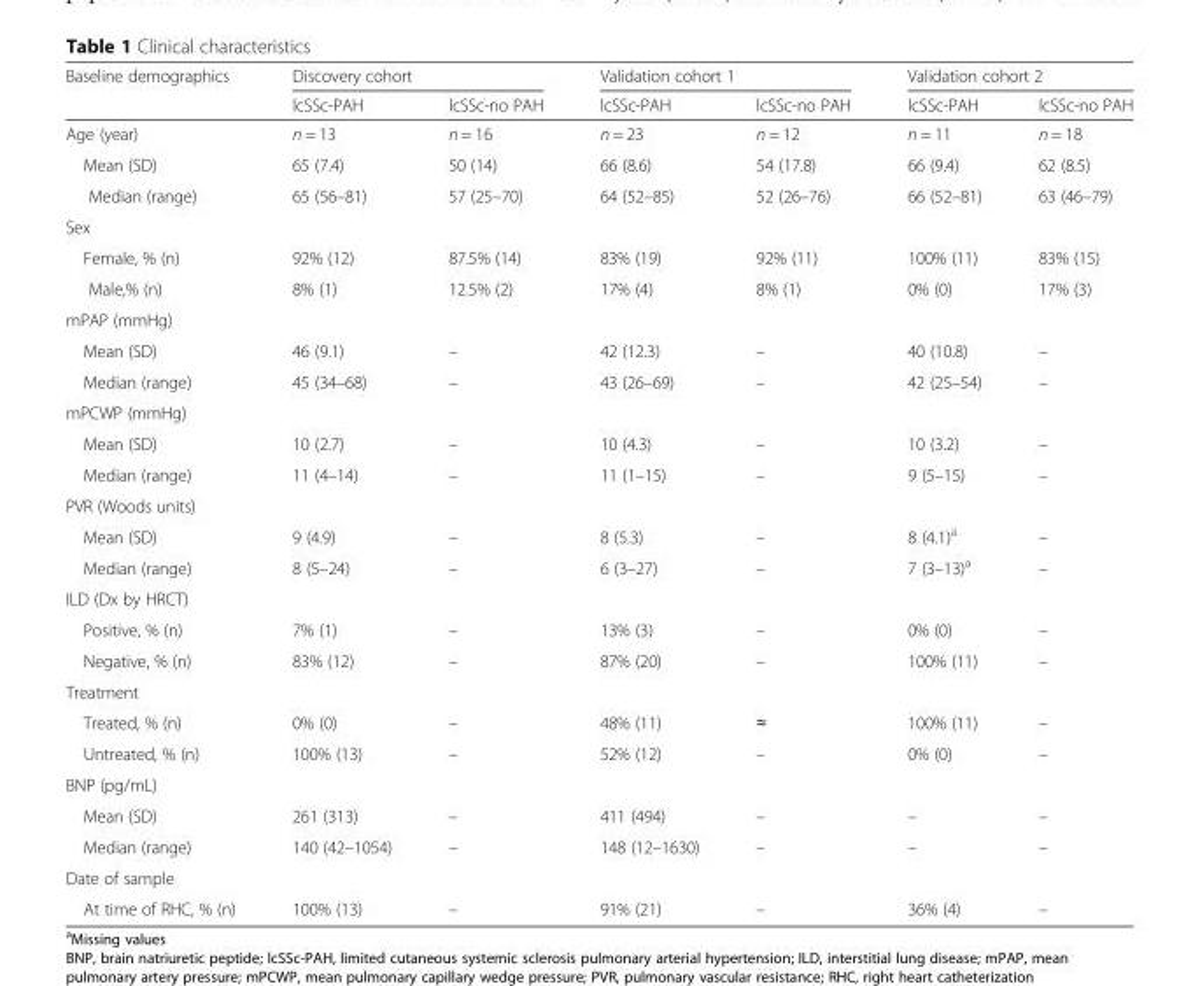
<table><thead><tr><td rowspan="2">Baseline demographics</td><td colspan="2">Discovery cohort</td><td colspan="2">Validation cohort 1</td><td colspan="2">Validation cohort 2</td></tr><tr><td>lcSSc-PAH</td><td>lcSSc-no PAH</td><td>lcSSc-PAH</td><td>lcSSc-no PAH</td><td>lcSSc-PAH</td><td>lcSSc-no PAH</td></tr></thead><tbody><tr><td>Age (year)</td><td>n = 13</td><td>n = 16</td><td>n = 23</td><td>n = 12</td><td>n = 11</td><td>n = 18</td></tr><tr><td>Mean (SD)</td><td>65 (7.4)</td><td>50 (14)</td><td>66 (8.6)</td><td>54 (17.8)</td><td>66 (9.4)</td><td>62 (8.5)</td></tr><tr><td>Median (range)</td><td>65 (56–81)</td><td>57 (25–70)</td><td>64 (52–85)</td><td>52 (26–76)</td><td>66 (52–81)</td><td>63 (46–79)</td></tr><tr><td colspan="7">Sex</td></tr><tr><td>Female, % (n)</td><td>92% (12)</td><td>87.5% (14)</td><td>83% (19)</td><td>92% (11)</td><td>100% (11)</td><td>83% (15)</td></tr><tr><td>Male,% (n)</td><td>8% (1)</td><td>12.5% (2)</td><td>17% (4)</td><td>8% (1)</td><td>0% (0)</td><td>17% (3)</td></tr><tr><td colspan="7">mPAP (mmHg)</td></tr><tr><td>Mean (SD)</td><td>46 (9.1)</td><td>–</td><td>42 (12.3)</td><td>–</td><td>40 (10.8)</td><td>–</td></tr><tr><td>Median (range)</td><td>45 (34–68)</td><td>–</td><td>43 (26–69)</td><td>–</td><td>42 (25–54)</td><td>–</td></tr><tr><td colspan="7">mPCWP (mmHg)</td></tr><tr><td>Mean (SD)</td><td>10 (2.7)</td><td>–</td><td>10 (4.3)</td><td>–</td><td>10 (3.2)</td><td>–</td></tr><tr><td>Median (range)</td><td>11 (4–14)</td><td>–</td><td>11 (1–15)</td><td>–</td><td>9 (5–15)</td><td>–</td></tr><tr><td colspan="7">PVR (Woods units)</td></tr><tr><td>Mean (SD)</td><td>9 (4.9)</td><td>–</td><td>8 (5.3)</td><td>–</td><td>8 (4.1)<sup>a</sup></td><td>–</td></tr><tr><td>Median (range)</td><td>8 (5–24)</td><td>–</td><td>6 (3–27)</td><td>–</td><td>7 (3–13)<sup>a</sup></td><td>–</td></tr><tr><td colspan="7">ILD (Dx by HRCT)</td></tr><tr><td>Positive, % (n)</td><td>7% (1)</td><td>–</td><td>13% (3)</td><td>–</td><td>0% (0)</td><td>–</td></tr><tr><td>Negative, % (n)</td><td>83% (12)</td><td>–</td><td>87% (20)</td><td>–</td><td>100% (11)</td><td>–</td></tr><tr><td colspan="7">Treatment</td></tr><tr><td>Treated, % (n)</td><td>0% (0)</td><td>–</td><td>48% (11)</td><td>≈</td><td>100% (11)</td><td>–</td></tr><tr><td>Untreated, % (n)</td><td>100% (13)</td><td>–</td><td>52% (12)</td><td>–</td><td>0% (0)</td><td>–</td></tr><tr><td colspan="7">BNP (pg/mL)</td></tr><tr><td>Mean (SD)</td><td>261 (313)</td><td>–</td><td>411 (494)</td><td>–</td><td>–</td><td>–</td></tr><tr><td>Median (range)</td><td>140 (42–1054)</td><td>–</td><td>148 (12–1630)</td><td>–</td><td>–</td><td>–</td></tr><tr><td colspan="7">Date of sample</td></tr><tr><td>At time of RHC, % (n)</td><td>100% (13)</td><td>–</td><td>91% (21)</td><td>–</td><td>36% (4)</td><td>–</td></tr></tbody></table>